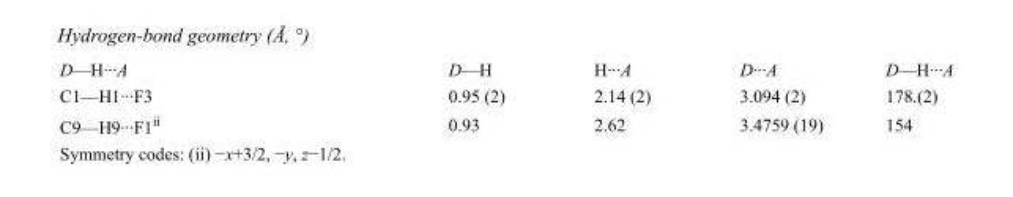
<table><tbody><tr><td>D—H···A</td><td>D—H</td><td>H···A</td><td>D···A</td><td>D—H···A</td></tr><tr><td>C1—H1···F3</td><td>0.95 (2)</td><td>2.14 (2)</td><td>3.094 (2)</td><td>178.(2)</td></tr><tr><td>C9—H9···F1<sup>ii</sup></td><td>0.93</td><td>2.62</td><td>3.4759 (19)</td><td>154</td></tr></tbody></table>